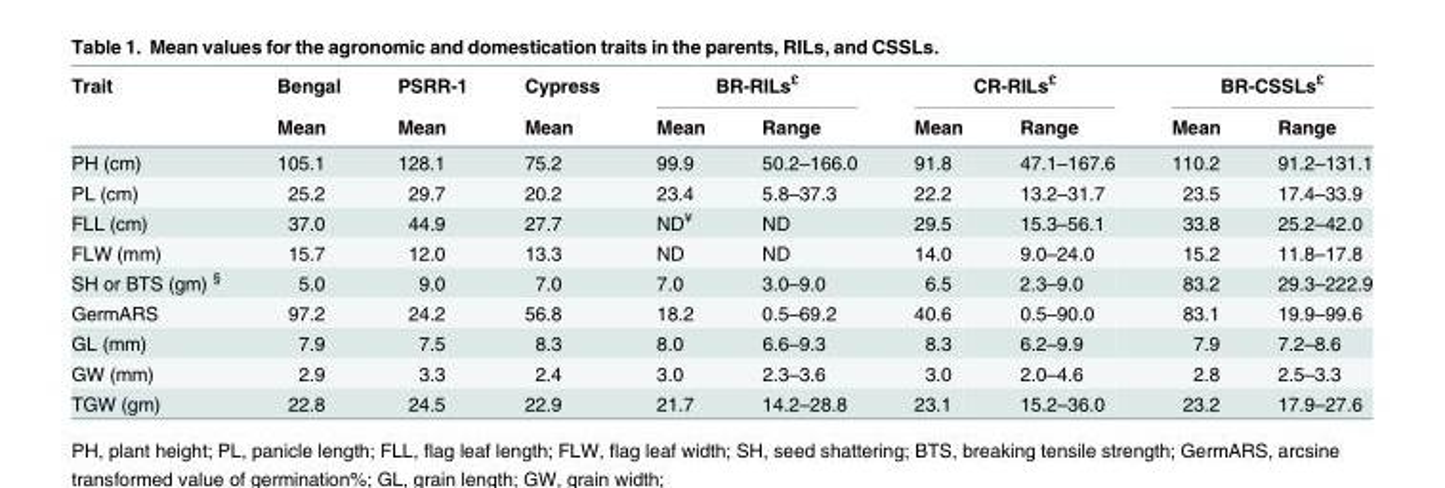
<table><thead><tr><td rowspan="2">Trait</td><td rowspan="2">Bengal Mean</td><td rowspan="2">PSRR-1 Mean</td><td rowspan="2">Cypress Mean</td><td colspan="2">BR-RILs<sup>£</sup></td><td colspan="2">CR-RILs<sup>£</sup></td><td colspan="2">BR-CSSLs<sup>£</sup></td></tr><tr><td>Mean</td><td>Range</td><td>Mean</td><td>Range</td><td>Mean</td><td>Range</td></tr></thead><tbody><tr><td>PH (cm)</td><td>105.1</td><td>128.1</td><td>75.2</td><td>99.9</td><td>50.2–166.0</td><td>91.8</td><td>47.1–167.6</td><td>110.2</td><td>91.2–131.1</td></tr><tr><td>PL (cm)</td><td>25.2</td><td>29.7</td><td>20.2</td><td>23.4</td><td>5.8–37.3</td><td>22.2</td><td>13.2–31.7</td><td>23.5</td><td>17.4–33.9</td></tr><tr><td>FLL (cm)</td><td>37.0</td><td>44.9</td><td>27.7</td><td>ND<sup>¥</sup></td><td>ND</td><td>29.5</td><td>15.3–56.1</td><td>33.8</td><td>25.2–42.0</td></tr><tr><td>FLW (mm)</td><td>15.7</td><td>12.0</td><td>13.3</td><td>ND</td><td>ND</td><td>14.0</td><td>9.0–24.0</td><td>15.2</td><td>11.8–17.8</td></tr><tr><td>SH or BTS (gm) <sup>§</sup></td><td>5.0</td><td>9.0</td><td>7.0</td><td>7.0</td><td>3.0–9.0</td><td>6.5</td><td>2.3–9.0</td><td>83.2</td><td>29.3–222.9</td></tr><tr><td>GermARS</td><td>97.2</td><td>24.2</td><td>56.8</td><td>18.2</td><td>0.5–69.2</td><td>40.6</td><td>0.5–90.0</td><td>83.1</td><td>19.9–99.6</td></tr><tr><td>GL (mm)</td><td>7.9</td><td>7.5</td><td>8.3</td><td>8.0</td><td>6.6–9.3</td><td>8.3</td><td>6.2–9.9</td><td>7.9</td><td>7.2–8.6</td></tr><tr><td>GW (mm)</td><td>2.9</td><td>3.3</td><td>2.4</td><td>3.0</td><td>2.3–3.6</td><td>3.0</td><td>2.0–4.6</td><td>2.8</td><td>2.5–3.3</td></tr><tr><td>TGW (gm)</td><td>22.8</td><td>24.5</td><td>22.9</td><td>21.7</td><td>14.2–28.8</td><td>23.1</td><td>15.2–36.0</td><td>23.2</td><td>17.9–27.6</td></tr></tbody></table>